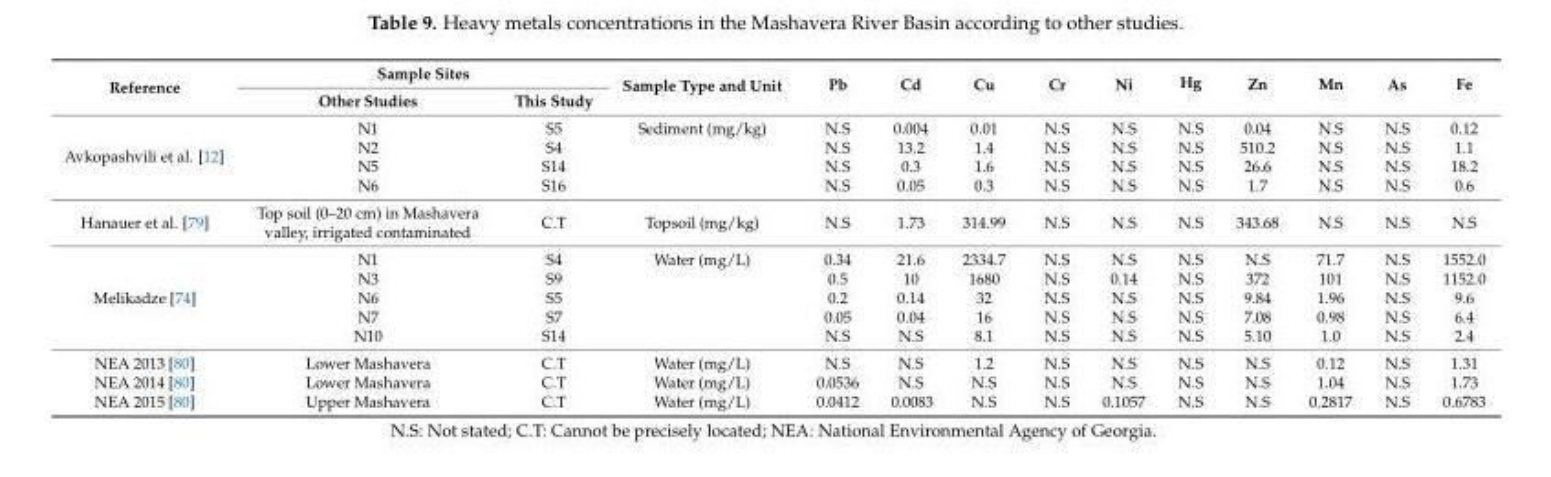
<table><thead><tr><td rowspan="2">Reference</td><td colspan="2">Sample Sites</td><td rowspan="2">Sample Type and Unit</td><td rowspan="2">Pb</td><td rowspan="2">Cd</td><td rowspan="2">Cu</td><td rowspan="2">Cr</td><td rowspan="2">Ni</td><td rowspan="2">Hg</td><td rowspan="2">Zn</td><td rowspan="2">Mn</td><td rowspan="2">As</td><td rowspan="2">Fe</td></tr><tr><td>Other Studies</td><td>This Study</td></tr></thead><tbody><tr><td rowspan="4">Avkopashvili et al. [12]</td><td>N1</td><td>S5</td><td>Sediment (mg/kg)</td><td>N.S</td><td>0.004</td><td>0.01</td><td>N.S</td><td>N.S</td><td>N.S</td><td>0.04</td><td>N.S</td><td>N.S</td><td>0.12</td></tr><tr><td>N2</td><td>S4</td><td></td><td>N.S</td><td>13.2</td><td>1.4</td><td>N.S</td><td>N.S</td><td>N.S</td><td>510.2</td><td>N.S</td><td>N.S</td><td>1.1</td></tr><tr><td>N5</td><td>S14</td><td></td><td>N.S</td><td>0.3</td><td>1.6</td><td>N.S</td><td>N.S</td><td>N.S</td><td>26.6</td><td>N.S</td><td>N.S</td><td>18.2</td></tr><tr><td>N6</td><td>S16</td><td></td><td>N.S</td><td>0.05</td><td>0.3</td><td>N.S</td><td>N.S</td><td>N.S</td><td>1.7</td><td>N.S</td><td>N.S</td><td>0.6</td></tr><tr><td>Hanauer et al. [79]</td><td>Top soil (0–20 cm) in Mashavera valley, irrigated contaminated</td><td>C.T</td><td>Topsoil (mg/kg)</td><td>N.S</td><td>1.73</td><td>314.99</td><td>N.S</td><td>N.S</td><td>N.S</td><td>343.68</td><td>N.S</td><td>N.S</td><td>N.S</td></tr><tr><td rowspan="5">Melikadze [74]</td><td>N1</td><td>S4</td><td>Water (mg/L)</td><td>0.34</td><td>21.6</td><td>2334.7</td><td>N.S</td><td>N.S</td><td>N.S</td><td>N.S</td><td>71.7</td><td>N.S</td><td>1552.0</td></tr><tr><td>N3</td><td>S9</td><td></td><td>0.5</td><td>10</td><td>1680</td><td>N.S</td><td>0.14</td><td>N.S</td><td>372</td><td>101</td><td>N.S</td><td>1152.0</td></tr><tr><td>N6</td><td>S5</td><td></td><td>0.2</td><td>0.14</td><td>32</td><td>N.S</td><td>N.S</td><td>N.S</td><td>9.84</td><td>1.96</td><td>N.S</td><td>9.6</td></tr><tr><td>N7</td><td>S7</td><td></td><td>0.05</td><td>0.04</td><td>16</td><td>N.S</td><td>N.S</td><td>N.S</td><td>7.08</td><td>0.98</td><td>N.S</td><td>6.4</td></tr><tr><td>N10</td><td>S14</td><td></td><td>N.S</td><td>N.S</td><td>8.1</td><td>N.S</td><td>N.S</td><td>N.S</td><td>5.10</td><td>1.0</td><td>N.S</td><td>2.4</td></tr><tr><td>NEA 2013 [80]</td><td>Lower Mashavera</td><td>C.T</td><td>Water (mg/L)</td><td>N.S</td><td>N.S</td><td>1.2</td><td>N.S</td><td>N.S</td><td>N.S</td><td>N.S</td><td>0.12</td><td>N.S</td><td>1.31</td></tr><tr><td>NEA 2014 [80]</td><td>Lower Mashavera</td><td>C.T</td><td>Water (mg/L)</td><td>0.0536</td><td>N.S</td><td>N.S</td><td>N.S</td><td>N.S</td><td>N.S</td><td>N.S</td><td>1.04</td><td>N.S</td><td>1.73</td></tr><tr><td>NEA 2015 [80]</td><td>Upper Mashavera</td><td>C.T</td><td>Water (mg/L)</td><td>0.0412</td><td>0.0083</td><td>N.S</td><td>N.S</td><td>0.1057</td><td>N.S</td><td>N.S</td><td>0.2817</td><td>N.S</td><td>0.6783</td></tr></tbody></table>